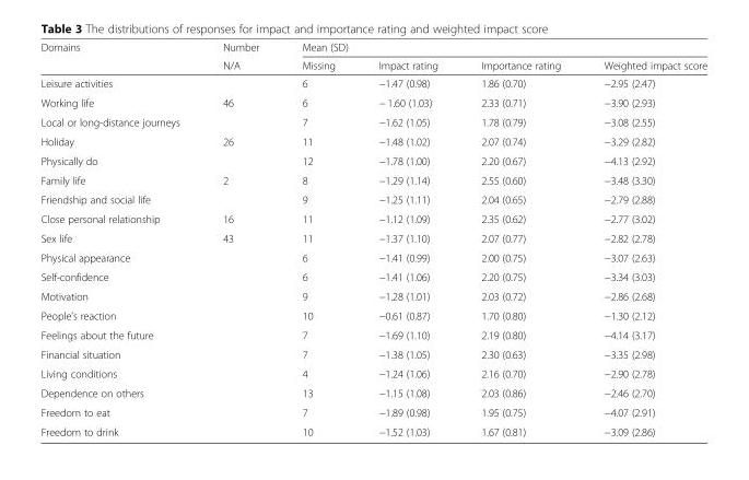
<table><thead><tr><td rowspan="2">Domains</td><td rowspan="2">Number N/A</td><td colspan="4">Mean (SD)</td></tr><tr><td>Missing</td><td>Impact rating</td><td>Importance rating</td><td>Weighted impact score</td></tr></thead><tbody><tr><td>Leisure activities</td><td></td><td>6</td><td>−1.47 (0.98)</td><td>1.86 (0.70)</td><td>−2.95 (2.47)</td></tr><tr><td>Working life</td><td>46</td><td>6</td><td>− 1.60 (1.03)</td><td>2.33 (0.71)</td><td>−3.90 (2.93)</td></tr><tr><td>Local or long-distance journeys</td><td></td><td>7</td><td>−1.62 (1.05)</td><td>1.78 (0.79)</td><td>−3.08 (2.55)</td></tr><tr><td>Holiday</td><td>26</td><td>11</td><td>−1.48 (1.02)</td><td>2.07 (0.74)</td><td>−3.29 (2.82)</td></tr><tr><td>Physically do</td><td></td><td>12</td><td>−1.78 (1.00)</td><td>2.20 (0.67)</td><td>−4.13 (2.92)</td></tr><tr><td>Family life</td><td>2</td><td>8</td><td>−1.29 (1.14)</td><td>2.55 (0.60)</td><td>−3.48 (3.30)</td></tr><tr><td>Friendship and social life</td><td></td><td>9</td><td>−1.25 (1.11)</td><td>2.04 (0.65)</td><td>−2.79 (2.88)</td></tr><tr><td>Close personal relationship</td><td>16</td><td>11</td><td>−1.12 (1.09)</td><td>2.35 (0.62)</td><td>−2.77 (3.02)</td></tr><tr><td>Sex life</td><td>43</td><td>11</td><td>−1.37 (1.10)</td><td>2.07 (0.77)</td><td>−2.82 (2.78)</td></tr><tr><td>Physical appearance</td><td></td><td>6</td><td>−1.41 (0.99)</td><td>2.00 (0.75)</td><td>−3.07 (2.63)</td></tr><tr><td>Self-confidence</td><td></td><td>6</td><td>−1.41 (1.06)</td><td>2.20 (0.75)</td><td>−3.34 (3.03)</td></tr><tr><td>Motivation</td><td></td><td>9</td><td>−1.28 (1.01)</td><td>2.03 (0.72)</td><td>−2.86 (2.68)</td></tr><tr><td>People’s reaction</td><td></td><td>10</td><td>−0.61 (0.87)</td><td>1.70 (0.80)</td><td>−1.30 (2.12)</td></tr><tr><td>Feelings about the future</td><td></td><td>7</td><td>−1.69 (1.10)</td><td>2.19 (0.80)</td><td>−4.14 (3.17)</td></tr><tr><td>Financial situation</td><td></td><td>7</td><td>−1.38 (1.05)</td><td>2.30 (0.63)</td><td>−3.35 (2.98)</td></tr><tr><td>Living conditions</td><td></td><td>4</td><td>−1.24 (1.06)</td><td>2.16 (0.70)</td><td>−2.90 (2.78)</td></tr><tr><td>Dependence on others</td><td></td><td>13</td><td>−1.15 (1.08)</td><td>2.03 (0.86)</td><td>−2.46 (2.70)</td></tr><tr><td>Freedom to eat</td><td></td><td>7</td><td>−1.89 (0.98)</td><td>1.95 (0.75)</td><td>−4.07 (2.91)</td></tr><tr><td>Freedom to drink</td><td></td><td>10</td><td>−1.52 (1.03)</td><td>1.67 (0.81)</td><td>−3.09 (2.86)</td></tr></tbody></table>